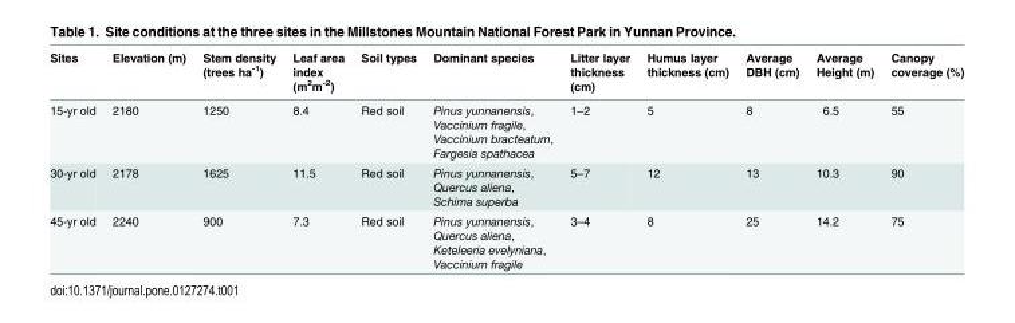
<table><thead><tr><td>Sites</td><td>Elevation (m)</td><td>Stem density (trees ha<sup>-1</sup>)</td><td>Leaf area index (m<sup>2</sup>m<sup>-2</sup>)</td><td>Soil types</td><td>Dominant species</td><td>Litter layer thickness (cm)</td><td>Humus layer thickness (cm)</td><td>Average DBH (cm)</td><td>Average Height (m)</td><td>Canopy coverage (%)</td></tr></thead><tbody><tr><td>15-yr old</td><td>2180</td><td>1250</td><td>8.4</td><td>Red soil</td><td>Pinus yunnanensis, Vaccinium fragile, Vaccinium bracteatum, Fargesia spathacea</td><td>1–2</td><td>5</td><td>8</td><td>6.5</td><td>55</td></tr><tr><td>30-yr old</td><td>2178</td><td>1625</td><td>11.5</td><td>Red soil</td><td>Pinus yunnanensis, Quercus aliena, Schima superba</td><td>5–7</td><td>12</td><td>13</td><td>10.3</td><td>90</td></tr><tr><td>45-yr old</td><td>2240</td><td>900</td><td>7.3</td><td>Red soil</td><td>Pinus yunnanensis, Quercus aliena, Keteleeria evelyniana, Vaccinium fragile</td><td>3–4</td><td>8</td><td>25</td><td>14.2</td><td>75</td></tr></tbody></table>